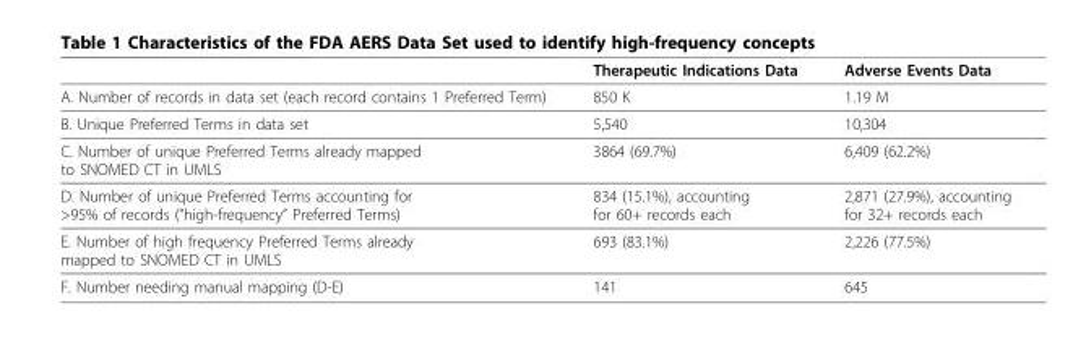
<table><thead><tr><td></td><td>Therapeutic Indications Data</td><td>Adverse Events Data</td></tr></thead><tbody><tr><td>A. Number of records in data set (each record contains 1 Preferred Term)</td><td>850 K</td><td>1.19 M</td></tr><tr><td>B. Unique Preferred Terms in data set</td><td>5,540</td><td>10,304</td></tr><tr><td>C. Number of unique Preferred Terms already mapped to SNOMED CT in UMLS</td><td>3864 (69.7%)</td><td>6,409 (62.2%)</td></tr><tr><td>D. Number of unique Preferred Terms accounting for &gt;95% of records (&quot;high-frequency” Preferred Terms)</td><td>834 (15.1%), accounting for 60+ records each</td><td>2,871 (27.9%), accounting for 32+ records each</td></tr><tr><td>E. Number of high frequency Preferred Terms already mapped to SNOMED CT in UMLS</td><td>693 (83.1%)</td><td>2,226 (77.5%)</td></tr><tr><td>F. Number needing manual mapping (D-E)</td><td>141</td><td>645</td></tr></tbody></table>